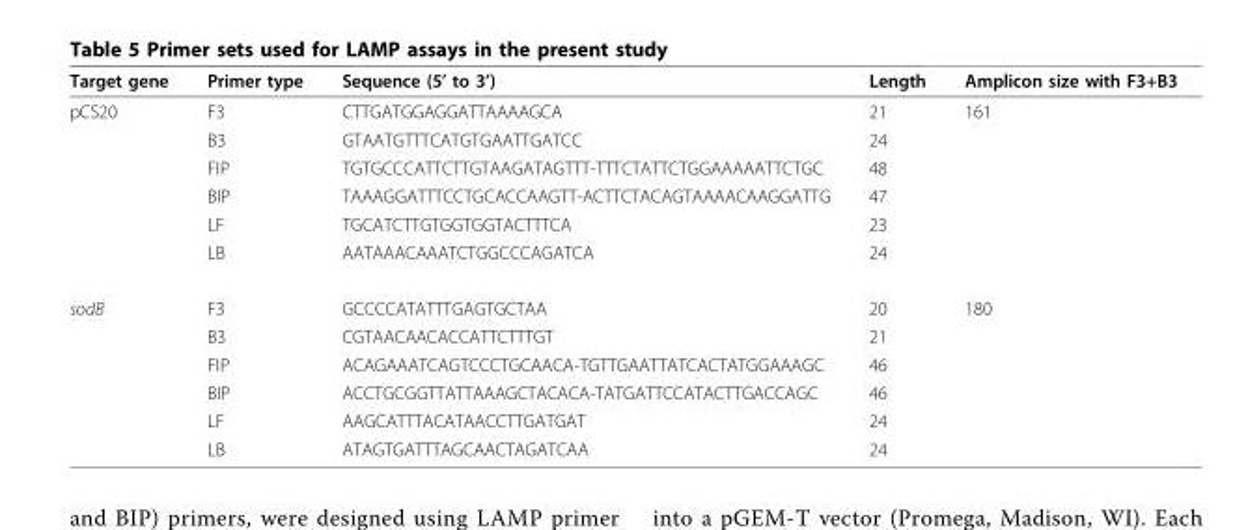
<table><thead><tr><td>Target gene</td><td>Primer type</td><td>Sequence (5’ to 3’)</td><td>Length</td><td>Amplicon size with F3+B3</td></tr></thead><tbody><tr><td rowspan="6">pCS20</td><td>F3</td><td>CTTGATGGAGGATTAAAAGCA</td><td>21</td><td>161</td></tr><tr><td>B3</td><td>GTAATGTTTCATGTGAATTGATCC</td><td>24</td><td></td></tr><tr><td>FIP</td><td>TGTGCCCATTCTTGTAAGATAGTTT-TTTCTATTCTGGAAAAATTCTGC</td><td>48</td><td></td></tr><tr><td>BIP</td><td>TAAAGGATTTCCTGCACCAAGTT-ACTTCTACAGTAAAACAAGGATTG</td><td>47</td><td></td></tr><tr><td>LF</td><td>TGCATCTTGTGGTGGTACTTTCA</td><td>23</td><td></td></tr><tr><td>LB</td><td>AATAAACAAATCTGGCCCAGATCA</td><td>24</td><td></td></tr><tr><td rowspan="6">sodB</td><td>F3</td><td>GCCCCATATTTGAGTGCTAA</td><td>20</td><td>180</td></tr><tr><td>B3</td><td>CGTAACAACACCATTCTTTGT</td><td>21</td><td></td></tr><tr><td>FIP</td><td>ACAGAAATCAGTCCCTGCAACA-TGTTGAATTATCACTATGGAAAGC</td><td>46</td><td></td></tr><tr><td>BIP</td><td>ACCTGCGGTTATTAAAGCTACACA-TATGATTCCATACTTGACCAGC</td><td>46</td><td></td></tr><tr><td>LF</td><td>AAGCATTTACATAACCTTGATGAT</td><td>24</td><td></td></tr><tr><td>LB</td><td>ATAGTGATTTAGCAACTAGATCAA</td><td>24</td><td></td></tr></tbody></table>